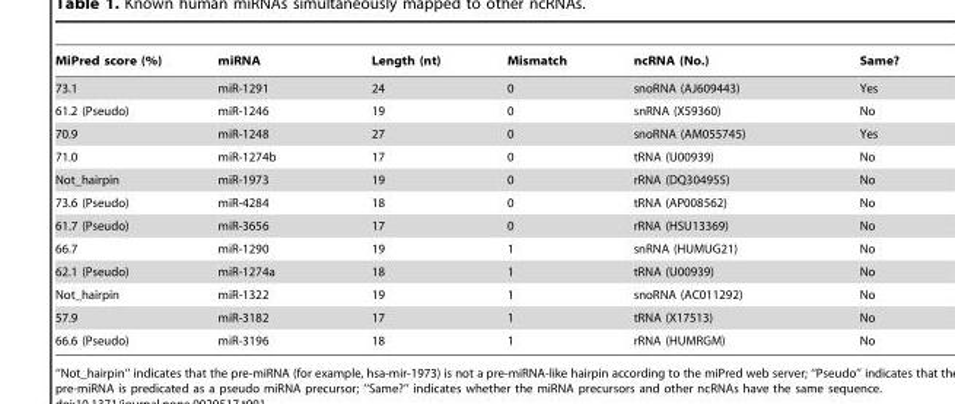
<table><thead><tr><td>MiPred score (%)</td><td>miRNA</td><td>Length (nt)</td><td>Mismatch</td><td>ncRNA (No.)</td><td>Same?</td></tr></thead><tbody><tr><td>73.1</td><td>miR-1291</td><td>24</td><td>0</td><td>snoRNA (AJ609443)</td><td>Yes</td></tr><tr><td>61.2 (Pseudo)</td><td>miR-1246</td><td>19</td><td>0</td><td>snRNA (X59360)</td><td>No</td></tr><tr><td>70.9</td><td>miR-1248</td><td>27</td><td>0</td><td>snoRNA (AM055745)</td><td>Yes</td></tr><tr><td>71.0</td><td>miR-1274b</td><td>17</td><td>0</td><td>tRNA (U00939)</td><td>No</td></tr><tr><td>Not_hairpin</td><td>miR-1973</td><td>19</td><td>0</td><td>rRNA (DQ304955)</td><td>No</td></tr><tr><td>73.6 (Pseudo)</td><td>miR-4284</td><td>18</td><td>0</td><td>tRNA (AP008562)</td><td>No</td></tr><tr><td>61.7 (Pseudo)</td><td>miR-3656</td><td>17</td><td>0</td><td>rRNA (HSU13369)</td><td>No</td></tr><tr><td>66.7</td><td>miR-1290</td><td>19</td><td>1</td><td>snRNA (HUMUG21)</td><td>No</td></tr><tr><td>62.1 (Pseudo)</td><td>miR-1274a</td><td>18</td><td>1</td><td>tRNA (U00939)</td><td>No</td></tr><tr><td>Not_hairpin</td><td>miR-1322</td><td>19</td><td>1</td><td>snoRNA (AC011292)</td><td>No</td></tr><tr><td>57.9</td><td>miR-3182</td><td>17</td><td>1</td><td>tRNA (X17513)</td><td>No</td></tr><tr><td>66.6 (Pseudo)</td><td>miR-3196</td><td>18</td><td>1</td><td>rRNA (HUMRGM)</td><td>No</td></tr></tbody></table>